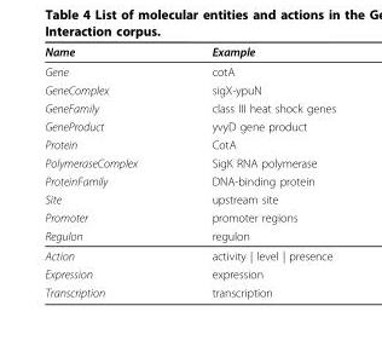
<table><thead><tr><td>Name</td><td>Example</td></tr></thead><tbody><tr><td>Gene</td><td>cotA</td></tr><tr><td>GeneComplex</td><td>sigX-ypuN</td></tr><tr><td>GeneFamily</td><td>class III heat shock genes</td></tr><tr><td>GeneProduct</td><td>yvyD gene product</td></tr><tr><td>Protein</td><td>CotA</td></tr><tr><td>PolymeraseComplex</td><td>SigK RNA polymerase</td></tr><tr><td>ProteinFamily</td><td>DNA-binding protein</td></tr><tr><td>Site</td><td>upstream site</td></tr><tr><td>Promoter</td><td>promoter regions</td></tr><tr><td>Regulon</td><td>regulon</td></tr><tr><td>Action</td><td>activity | level | presence</td></tr><tr><td>Expression</td><td>expression</td></tr><tr><td>Transcription</td><td>transcription</td></tr></tbody></table>